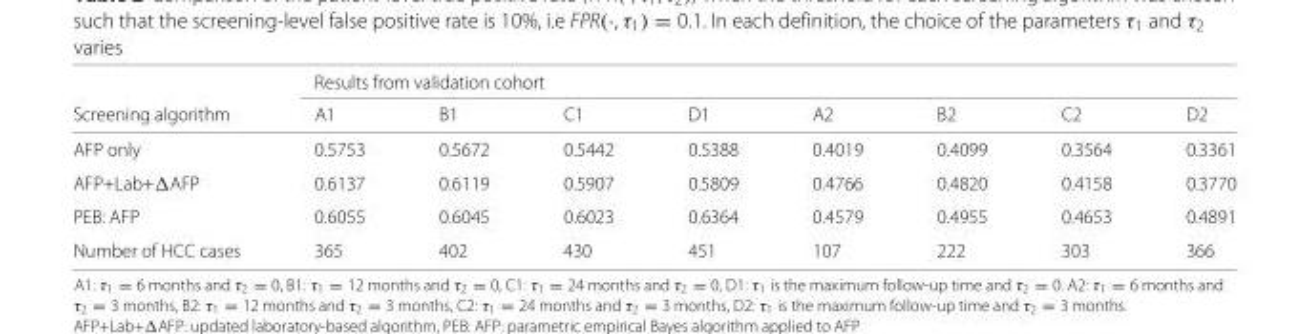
<table><thead><tr><td rowspan="2">Screening algorithm</td><td colspan="8">Results from validation cohort</td></tr><tr><td>A1</td><td>B1</td><td>C1</td><td>D1</td><td>A2</td><td>B2</td><td>C2</td><td>D2</td></tr></thead><tbody><tr><td>AFP only</td><td>0.5753</td><td>0.5672</td><td>0.5442</td><td>0.5388</td><td>0.4019</td><td>0.4099</td><td>0.3564</td><td>0.3361</td></tr><tr><td>AFP+Lab+ΔAFP</td><td>0.6137</td><td>0.6119</td><td>0.5907</td><td>0.5809</td><td>0.4766</td><td>0.4820</td><td>0.4158</td><td>0.3770</td></tr><tr><td>PEB: AFP</td><td>0.6055</td><td>0.6045</td><td>0.6023</td><td>0.6364</td><td>0.4579</td><td>0.4955</td><td>0.4653</td><td>0.4891</td></tr><tr><td>Number of HCC cases</td><td>365</td><td>402</td><td>430</td><td>451</td><td>107</td><td>222</td><td>303</td><td>366</td></tr></tbody></table>